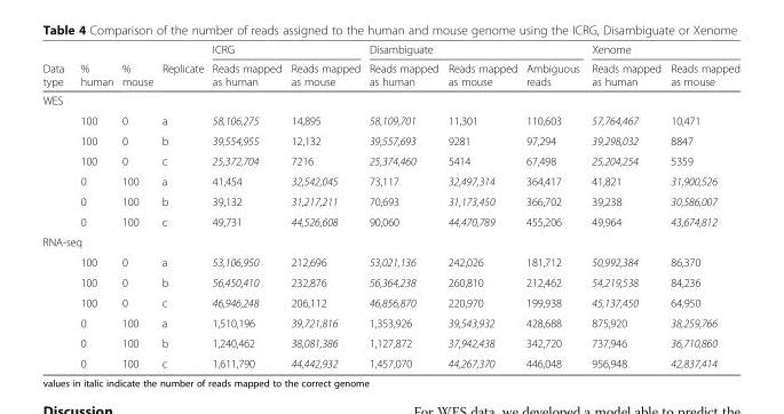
<table><thead><tr><td rowspan="2">Data type</td><td rowspan="2">% human</td><td rowspan="2">% mouse</td><td rowspan="2">Replicate</td><td colspan="2">ICRG</td><td colspan="3">Disambiguate</td><td colspan="2">Xenome</td></tr><tr><td>Reads mapped as human</td><td>Reads mapped as mouse</td><td>Reads mapped as human</td><td>Reads mapped as mouse</td><td>Ambiguous reads</td><td>Reads mapped as human</td><td>Reads mapped as mouse</td></tr></thead><tbody><tr><td colspan="11">WES</td></tr><tr><td></td><td>100</td><td>0</td><td>a</td><td>58,106,275</td><td>14,895</td><td>58,109,701</td><td>11,301</td><td>110,603</td><td>57,764,467</td><td>10,471</td></tr><tr><td></td><td>100</td><td>0</td><td>b</td><td>39,554,955</td><td>12,132</td><td>39,557,693</td><td>9281</td><td>97,294</td><td>39,298,032</td><td>8847</td></tr><tr><td></td><td>100</td><td>0</td><td>c</td><td>25,372,704</td><td>7216</td><td>25,374,460</td><td>5414</td><td>67,498</td><td>25,204,254</td><td>5359</td></tr><tr><td></td><td>0</td><td>100</td><td>a</td><td>41,454</td><td>32,542,045</td><td>73,117</td><td>32,497,314</td><td>364,417</td><td>41,821</td><td>31,900,526</td></tr><tr><td></td><td>0</td><td>100</td><td>b</td><td>39,132</td><td>31,217,211</td><td>70,693</td><td>31,173,450</td><td>366,702</td><td>39,238</td><td>30,586,007</td></tr><tr><td></td><td>0</td><td>100</td><td>c</td><td>49,731</td><td>44,526,608</td><td>90,060</td><td>44,470,789</td><td>455,206</td><td>49,964</td><td>43,674,812</td></tr><tr><td colspan="11">RNA-seq</td></tr><tr><td></td><td>100</td><td>0</td><td>a</td><td>53,106,950</td><td>212,696</td><td>53,021,136</td><td>242,026</td><td>181,712</td><td>50,992,384</td><td>86,370</td></tr><tr><td></td><td>100</td><td>0</td><td>b</td><td>56,450,410</td><td>232,876</td><td>56,364,238</td><td>260,810</td><td>212,462</td><td>54,219,538</td><td>84,236</td></tr><tr><td></td><td>100</td><td>0</td><td>c</td><td>46,946,248</td><td>206,112</td><td>46,856,870</td><td>220,970</td><td>199,938</td><td>45,137,450</td><td>64,950</td></tr><tr><td></td><td>0</td><td>100</td><td>a</td><td>1,510,196</td><td>39,721,816</td><td>1,353,926</td><td>39,543,932</td><td>428,688</td><td>875,920</td><td>38,259,766</td></tr><tr><td></td><td>0</td><td>100</td><td>b</td><td>1,240,462</td><td>38,081,386</td><td>1,127,872</td><td>37,942,438</td><td>342,720</td><td>737,946</td><td>36,710,860</td></tr><tr><td></td><td>0</td><td>100</td><td>c</td><td>1,611,790</td><td>44,442,932</td><td>1,457,070</td><td>44,267,370</td><td>446,048</td><td>956,948</td><td>42,837,414</td></tr></tbody></table>